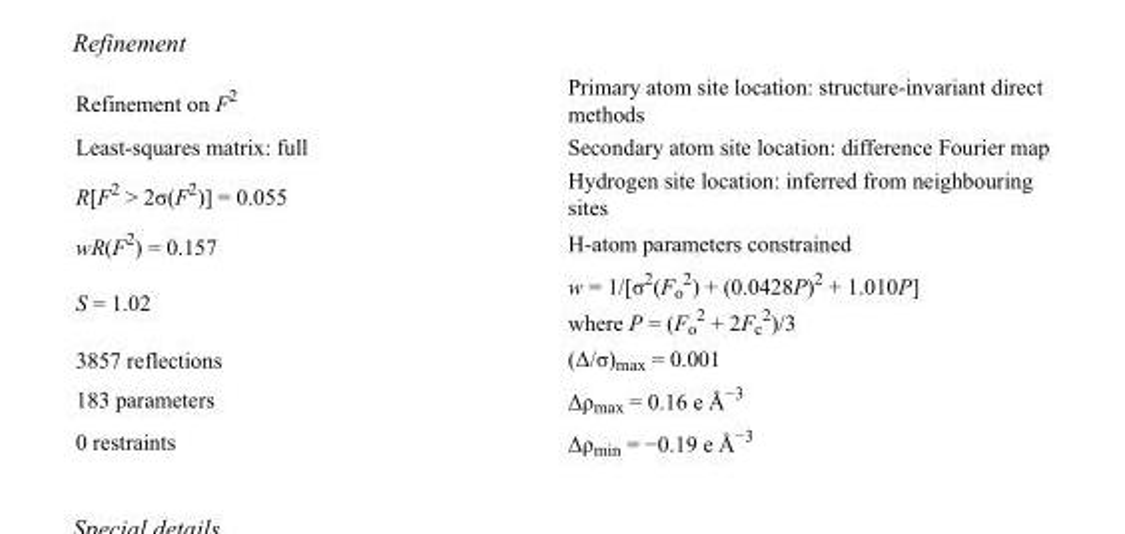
<table><tbody><tr><td>Refinement on F<sup>2</sup></td><td>Primary atom site location: structure-invariant direct methods</td></tr><tr><td>Least-squares matrix: full</td><td>Secondary atom site location: difference Fourier map</td></tr><tr><td>R[F<sup>2</sup> &gt; 2σ(F<sup>2</sup>)] = 0.055</td><td>Hydrogen site location: inferred from neighbouring sites</td></tr><tr><td>wR(F<sup>2</sup>) = 0.157</td><td>H-atom parameters constrained</td></tr><tr><td>S = 1.02</td><td>w = 1/[σ<sup>2</sup>(F<sub>o</sub> <sup>2</sup>) + (0.0428P)<sup>2</sup> + 1.010P] where P = (F<sub>o</sub> <sup>2</sup> + 2F<sub>c</sub> <sup>2</sup>)/3</td></tr><tr><td>3857 reflections</td><td>(Δ/σ)<sub>max</sub> = 0.001</td></tr><tr><td>183 parameters</td><td>Δρ<sub>max</sub> = 0.16 e Å<sup>−3</sup></td></tr><tr><td>0 restraints</td><td>Δρ<sub>min</sub> = −0.19 e Å<sup>−3</sup></td></tr></tbody></table>